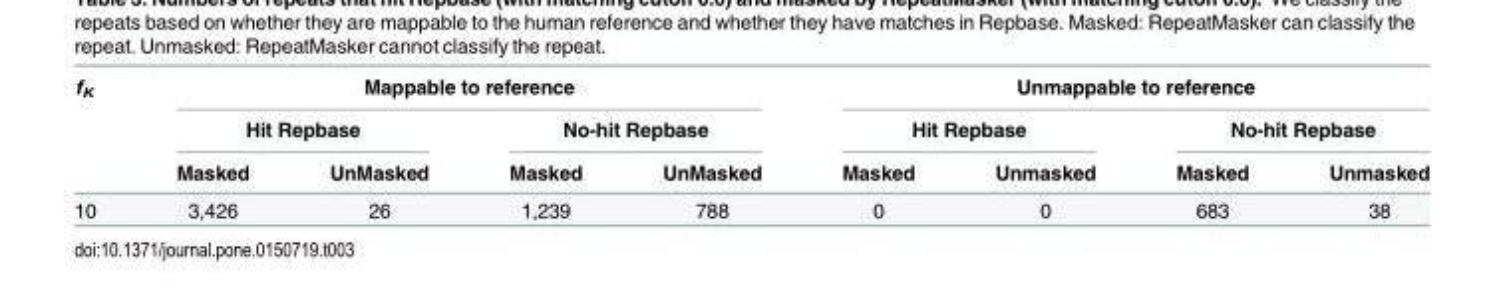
<table><thead><tr><td rowspan="3">f<sub>K</sub></td><td colspan="4">Mappable to reference</td><td colspan="4">Unmappable to reference</td></tr><tr><td colspan="2">Hit Repbase</td><td colspan="2">No-hit Repbase</td><td colspan="2">Hit Repbase</td><td colspan="2">No-hit Repbase</td></tr><tr><td>Masked</td><td>UnMasked</td><td>Masked</td><td>UnMasked</td><td>Masked</td><td>Unmasked</td><td>Masked</td><td>Unmasked</td></tr></thead><tbody><tr><td>10</td><td>3,426</td><td>26</td><td>1,239</td><td>788</td><td>0</td><td>0</td><td>683</td><td>38</td></tr></tbody></table>